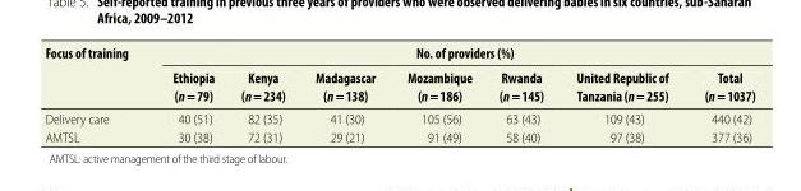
<table><thead><tr><td rowspan="2">Focus of training</td><td colspan="7">No. of providers (%)</td></tr><tr><td>Ethiopia (n = 79)</td><td>Kenya (n = 234)</td><td>Madagascar (n = 138)</td><td>Mozambique (n = 186)</td><td>Rwanda (n = 145)</td><td>United Republic of Tanzania (n = 255)</td><td>Total (n = 1037)</td></tr></thead><tbody><tr><td>Delivery care</td><td>40 (51)</td><td>82 (35)</td><td>41 (30)</td><td>105 (56)</td><td>63 (43)</td><td>109 (43)</td><td>440 (42)</td></tr><tr><td>AMTSL</td><td>30 (38)</td><td>72 (31)</td><td>29 (21)</td><td>91 (49)</td><td>58 (40)</td><td>97 (38)</td><td>377 (36)</td></tr></tbody></table>